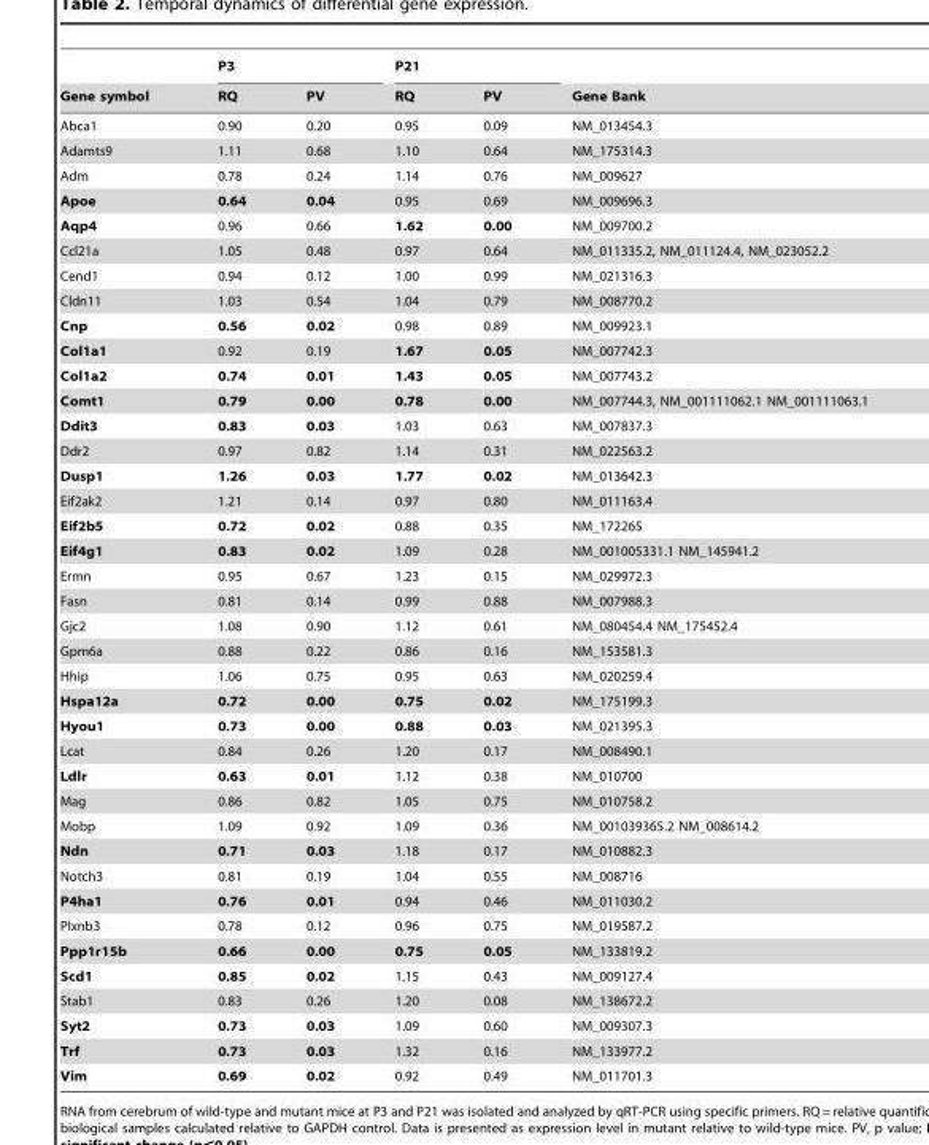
<table><thead><tr><td rowspan="2">Gene symbol</td><td colspan="2">P3</td><td colspan="2">P21</td><td rowspan="2">Gene Bank</td></tr><tr><td>RQ</td><td>PV</td><td>RQ</td><td>PV</td></tr></thead><tbody><tr><td>Abca1</td><td>0.90</td><td>0.20</td><td>0.95</td><td>0.09</td><td>NM_013454.3</td></tr><tr><td>Adamts9</td><td>1.11</td><td>0.68</td><td>1.10</td><td>0.64</td><td>NM_175314.3</td></tr><tr><td>Adm</td><td>0.78</td><td>0.24</td><td>1.14</td><td>0.76</td><td>NM_009627</td></tr><tr><td>Apoe</td><td>0.64</td><td>0.04</td><td>0.95</td><td>0.69</td><td>NM_009696.3</td></tr><tr><td>Aqp4</td><td>0.96</td><td>0.66</td><td>1.62</td><td>0.00</td><td>NM_009700.2</td></tr><tr><td>Ccl21a</td><td>1.05</td><td>0.48</td><td>0.97</td><td>0.64</td><td>NM_011335.2, NM_011124.4, NM_023052.2</td></tr><tr><td>Cend1</td><td>0.94</td><td>0.12</td><td>1.00</td><td>0.99</td><td>NM_021316.3</td></tr><tr><td>Cldn11</td><td>1.03</td><td>0.54</td><td>1.04</td><td>0.79</td><td>NM_008770.2</td></tr><tr><td>Cnp</td><td>0.56</td><td>0.02</td><td>0.98</td><td>0.89</td><td>NM_009923.1</td></tr><tr><td>Col1a1</td><td>0.92</td><td>0.19</td><td>1.67</td><td>0.05</td><td>NM_007742.3</td></tr><tr><td>Col1a2</td><td>0.74</td><td>0.01</td><td>1.43</td><td>0.05</td><td>NM_007743.2</td></tr><tr><td>Comt1</td><td>0.79</td><td>0.00</td><td>0.78</td><td>0.00</td><td>NM_007744.3, NM_001111062.1 NM_001111063.1</td></tr><tr><td>Ddit3</td><td>0.83</td><td>0.03</td><td>1.03</td><td>0.63</td><td>NM_007837.3</td></tr><tr><td>Ddr2</td><td>0.97</td><td>0.82</td><td>1.14</td><td>0.31</td><td>NM_022563.2</td></tr><tr><td>Dusp1</td><td>1.26</td><td>0.03</td><td>1.77</td><td>0.02</td><td>NM_013642.3</td></tr><tr><td>Eif2ak2</td><td>1.21</td><td>0.14</td><td>0.97</td><td>0.80</td><td>NM_011163.4</td></tr><tr><td>Eif2b5</td><td>0.72</td><td>0.02</td><td>0.88</td><td>0.35</td><td>NM_172265</td></tr><tr><td>Eif4g1</td><td>0.83</td><td>0.02</td><td>1.09</td><td>0.28</td><td>NM_001005331.1 NM_145941.2</td></tr><tr><td>Ermn</td><td>0.95</td><td>0.67</td><td>1.23</td><td>0.15</td><td>NM_029972.3</td></tr><tr><td>Fasn</td><td>0.81</td><td>0.14</td><td>0.99</td><td>0.88</td><td>NM_007988.3</td></tr><tr><td>Gjc2</td><td>1.08</td><td>0.90</td><td>1.12</td><td>0.61</td><td>NM_080454.4 NM_175452.4</td></tr><tr><td>Gpm6a</td><td>0.88</td><td>0.22</td><td>0.86</td><td>0.16</td><td>NM_153581.3</td></tr><tr><td>Hhip</td><td>1.06</td><td>0.75</td><td>0.95</td><td>0.63</td><td>NM_020259.4</td></tr><tr><td>Hspa12a</td><td>0.72</td><td>0.00</td><td>0.75</td><td>0.02</td><td>NM_175199.3</td></tr><tr><td>Hyou1</td><td>0.73</td><td>0.00</td><td>0.88</td><td>0.03</td><td>NM_021395.3</td></tr><tr><td>Lcat</td><td>0.84</td><td>0.26</td><td>1.20</td><td>0.17</td><td>NM_008490.1</td></tr><tr><td>Ldlr</td><td>0.63</td><td>0.01</td><td>1.12</td><td>0.38</td><td>NM_010700</td></tr><tr><td>Mag</td><td>0.86</td><td>0.82</td><td>1.05</td><td>0.75</td><td>NM_010758.2</td></tr><tr><td>Mobp</td><td>1.09</td><td>0.92</td><td>1.09</td><td>0.36</td><td>NM_001039365.2 NM_008614.2</td></tr><tr><td>Ndn</td><td>0.71</td><td>0.03</td><td>1.18</td><td>0.17</td><td>NM_010882.3</td></tr><tr><td>Notch3</td><td>0.81</td><td>0.19</td><td>1.04</td><td>0.55</td><td>NM_008716</td></tr><tr><td>P4ha1</td><td>0.76</td><td>0.01</td><td>0.94</td><td>0.46</td><td>NM_011030.2</td></tr><tr><td>Plxnb3</td><td>0.78</td><td>0.12</td><td>0.96</td><td>0.75</td><td>NM_019587.2</td></tr><tr><td>Ppp1r15b</td><td>0.66</td><td>0.00</td><td>0.75</td><td>0.05</td><td>NM_133819.2</td></tr><tr><td>Scd1</td><td>0.85</td><td>0.02</td><td>1.15</td><td>0.43</td><td>NM_009127.4</td></tr><tr><td>Stab1</td><td>0.83</td><td>0.26</td><td>1.20</td><td>0.08</td><td>NM_138672.2</td></tr><tr><td>Syt2</td><td>0.73</td><td>0.03</td><td>1.09</td><td>0.60</td><td>NM_009307.3</td></tr><tr><td>Trf</td><td>0.73</td><td>0.03</td><td>1.32</td><td>0.16</td><td>NM_133977.2</td></tr><tr><td>Vim</td><td>0.69</td><td>0.02</td><td>0.92</td><td>0.49</td><td>NM_011701.3</td></tr></tbody></table>